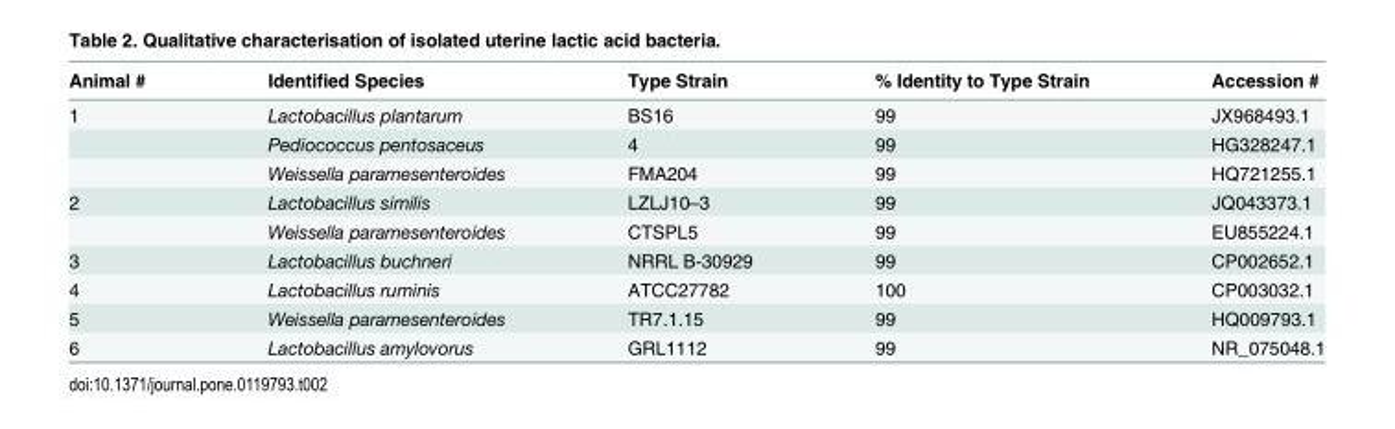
<table><thead><tr><td>Animal #</td><td>Identified Species</td><td>Type Strain</td><td>% Identity to Type Strain</td><td>Accession #</td></tr></thead><tbody><tr><td rowspan="3">1</td><td>Lactobacillus plantarum</td><td>BS16</td><td>99</td><td>JX968493.1</td></tr><tr><td>Pediococcus pentosaceus</td><td>4</td><td>99</td><td>HG328247.1</td></tr><tr><td>Weissella paramesenteroides</td><td>FMA204</td><td>99</td><td>HQ721255.1</td></tr><tr><td rowspan="2">2</td><td>Lactobacillus similis</td><td>LZLJ10–3</td><td>99</td><td>JQ043373.1</td></tr><tr><td>Weissella paramesenteroides</td><td>CTSPL5</td><td>99</td><td>EU855224.1</td></tr><tr><td>3</td><td>Lactobacillus buchneri</td><td>NRRL B-30929</td><td>99</td><td>CP002652.1</td></tr><tr><td>4</td><td>Lactobacillus ruminis</td><td>ATCC27782</td><td>100</td><td>CP003032.1</td></tr><tr><td>5</td><td>Weissella paramesenteroides</td><td>TR7.1.15</td><td>99</td><td>HQ009793.1</td></tr><tr><td>6</td><td>Lactobacillus amylovorus</td><td>GRL1112</td><td>99</td><td>NR_075048.1</td></tr></tbody></table>